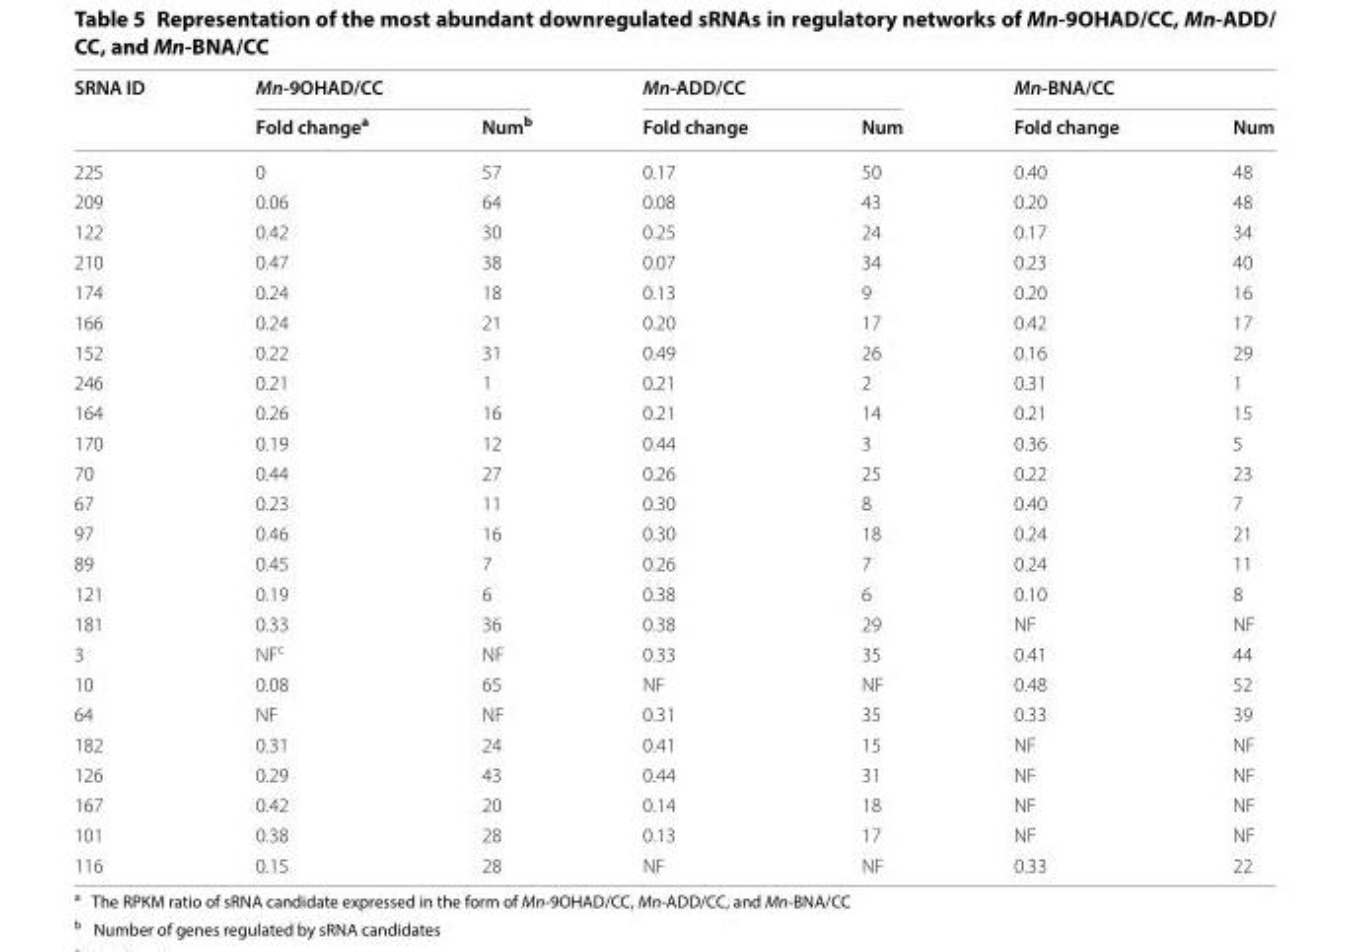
<table><thead><tr><td rowspan="2">SRNA ID</td><td colspan="2">Mn-9OHAD/CC</td><td colspan="2">Mn-ADD/CC</td><td colspan="2">Mn-BNA/CC</td></tr><tr><td>Fold change<sup>a</sup></td><td>Num<sup>b</sup></td><td>Fold change</td><td>Num</td><td>Fold change</td><td>Num</td></tr></thead><tbody><tr><td>225</td><td>0</td><td>57</td><td>0.17</td><td>50</td><td>0.40</td><td>48</td></tr><tr><td>209</td><td>0.06</td><td>64</td><td>0.08</td><td>43</td><td>0.20</td><td>48</td></tr><tr><td>122</td><td>0.42</td><td>30</td><td>0.25</td><td>24</td><td>0.17</td><td>34</td></tr><tr><td>210</td><td>0.47</td><td>38</td><td>0.07</td><td>34</td><td>0.23</td><td>40</td></tr><tr><td>174</td><td>0.24</td><td>18</td><td>0.13</td><td>9</td><td>0.20</td><td>16</td></tr><tr><td>166</td><td>0.24</td><td>21</td><td>0.20</td><td>17</td><td>0.42</td><td>17</td></tr><tr><td>152</td><td>0.22</td><td>31</td><td>0.49</td><td>26</td><td>0.16</td><td>29</td></tr><tr><td>246</td><td>0.21</td><td>1</td><td>0.21</td><td>2</td><td>0.31</td><td>1</td></tr><tr><td>164</td><td>0.26</td><td>16</td><td>0.21</td><td>14</td><td>0.21</td><td>15</td></tr><tr><td>170</td><td>0.19</td><td>12</td><td>0.44</td><td>3</td><td>0.36</td><td>5</td></tr><tr><td>70</td><td>0.44</td><td>27</td><td>0.26</td><td>25</td><td>0.22</td><td>23</td></tr><tr><td>67</td><td>0.23</td><td>11</td><td>0.30</td><td>8</td><td>0.40</td><td>7</td></tr><tr><td>97</td><td>0.46</td><td>16</td><td>0.30</td><td>18</td><td>0.24</td><td>21</td></tr><tr><td>89</td><td>0.45</td><td>7</td><td>0.26</td><td>7</td><td>0.24</td><td>11</td></tr><tr><td>121</td><td>0.19</td><td>6</td><td>0.38</td><td>6</td><td>0.10</td><td>8</td></tr><tr><td>181</td><td>0.33</td><td>36</td><td>0.38</td><td>29</td><td>NF</td><td>NF</td></tr><tr><td>3</td><td>NF<sup>c</sup></td><td>NF</td><td>0.33</td><td>35</td><td>0.41</td><td>44</td></tr><tr><td>10</td><td>0.08</td><td>65</td><td>NF</td><td>NF</td><td>0.48</td><td>52</td></tr><tr><td>64</td><td>NF</td><td>NF</td><td>0.31</td><td>35</td><td>0.33</td><td>39</td></tr><tr><td>182</td><td>0.31</td><td>24</td><td>0.41</td><td>15</td><td>NF</td><td>NF</td></tr><tr><td>126</td><td>0.29</td><td>43</td><td>0.44</td><td>31</td><td>NF</td><td>NF</td></tr><tr><td>167</td><td>0.42</td><td>20</td><td>0.14</td><td>18</td><td>NF</td><td>NF</td></tr><tr><td>101</td><td>0.38</td><td>28</td><td>0.13</td><td>17</td><td>NF</td><td>NF</td></tr><tr><td>116</td><td>0.15</td><td>28</td><td>NF</td><td>NF</td><td>0.33</td><td>22</td></tr></tbody></table>